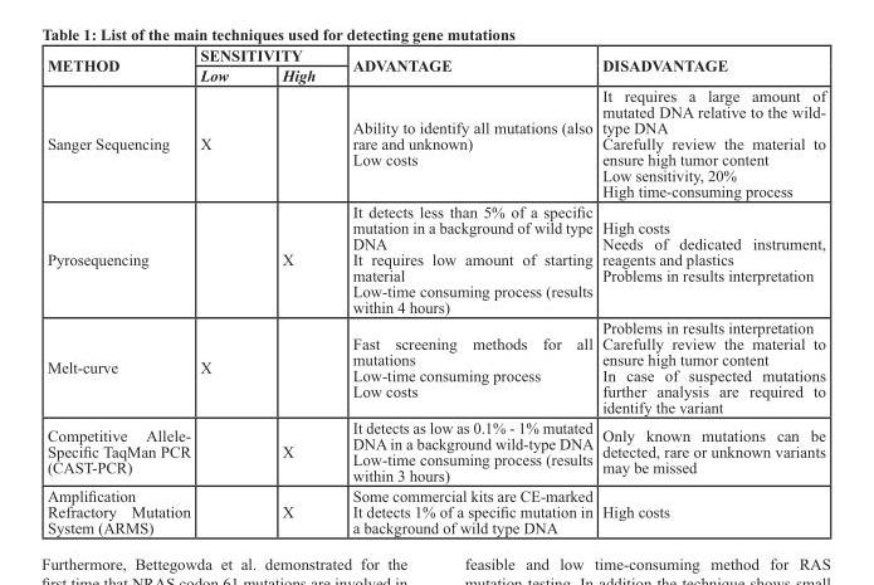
<table><thead><tr><td rowspan="2">METHOD</td><td colspan="2">SENSITIVITY</td><td rowspan="2">ADVANTAGE</td><td rowspan="2">DISADVANTAGE</td></tr><tr><td>Low</td><td>High</td></tr></thead><tbody><tr><td>Sanger Sequencing</td><td>X</td><td></td><td>Ability to identify all mutations (also rare and unknown) Low costs</td><td>It requires a large amount of mutated DNA relative to the wild- type DNA Carefully review the material to ensure high tumor content Low sensitivity, 20% High time-consuming process</td></tr><tr><td>Pyrosequencing</td><td></td><td>X</td><td>It detects less than 5% of a specific mutation in a background of wild type DNA It requires low amount of starting material Low-time consuming process (results within 4 hours)</td><td>High costs Needs of dedicated instrument, reagents and plastics Problems in results interpretation</td></tr><tr><td>Melt-curve</td><td>X</td><td></td><td>Fast screening methods for all mutations Low-time consuming process Low costs</td><td>Problems in results interpretation Carefully review the material to ensure high tumor content In case of suspected mutations further analysis are required to identify the variant</td></tr><tr><td>Competitive Allele- Specific TaqMan PCR (CAST-PCR)</td><td></td><td>X</td><td>It detects as low as 0.1% - 1% mutated DNA in a background wild-type DNA Low-time consuming process (results within 3 hours)</td><td>Only known mutations can be detected, rare or unknown variants may be missed</td></tr><tr><td>Amplification Refractory Mutation System (ARMS)</td><td></td><td>X</td><td>Some commercial kits are CE-marked It detects 1% of a specific mutation in a background of wild type DNA</td><td>High costs</td></tr></tbody></table>